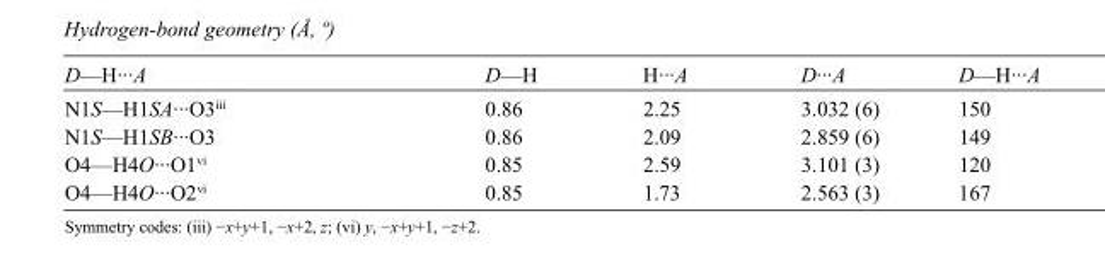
<table><tbody><tr><td>D—H···A</td><td>D—H</td><td>H···A</td><td>D···A</td><td>D—H···A</td></tr><tr><td>N1S—H1SA···O3<sup>iii</sup></td><td>0.86</td><td>2.25</td><td>3.032 (6)</td><td>150</td></tr><tr><td>N1S—H1SB···O3</td><td>0.86</td><td>2.09</td><td>2.859 (6)</td><td>149</td></tr><tr><td>O4—H4O···O1<sup>vi</sup></td><td>0.85</td><td>2.59</td><td>3.101 (3)</td><td>120</td></tr><tr><td>O4—H4O···O2<sup>vi</sup></td><td>0.85</td><td>1.73</td><td>2.563 (3)</td><td>167</td></tr></tbody></table>